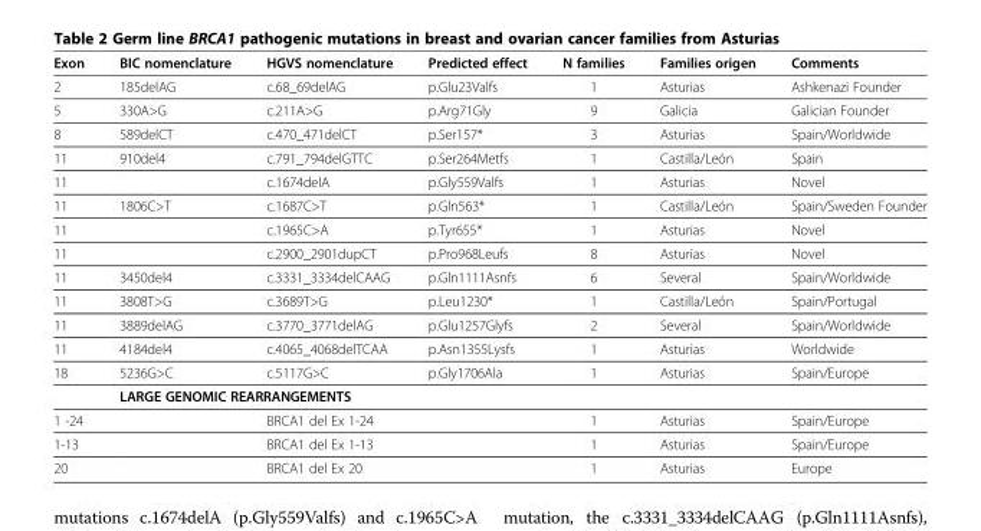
<table><thead><tr><td>Exon</td><td>BIC nomenclature</td><td>HGVS nomenclature</td><td>Predicted effect</td><td>N families</td><td>Families origen</td><td>Comments</td></tr></thead><tbody><tr><td>2</td><td>185delAG</td><td>c.68_69delAG</td><td>p.Glu23Valfs</td><td>1</td><td>Asturias</td><td>Ashkenazi Founder</td></tr><tr><td>5</td><td>330A&gt;G</td><td>c.211A&gt;G</td><td>p.Arg71Gly</td><td>9</td><td>Galicia</td><td>Galician Founder</td></tr><tr><td>8</td><td>589delCT</td><td>c.470_471delCT</td><td>p.Ser157*</td><td>3</td><td>Asturias</td><td>Spain/Worldwide</td></tr><tr><td>11</td><td>910del4</td><td>c.791_794delGTTC</td><td>p.Ser264Metfs</td><td>1</td><td>Castilla/León</td><td>Spain</td></tr><tr><td>11</td><td></td><td>c.1674delA</td><td>p.Gly559Valfs</td><td>1</td><td>Asturias</td><td>Novel</td></tr><tr><td>11</td><td>1806C&gt;T</td><td>c.1687C&gt;T</td><td>p.Gln563*</td><td>1</td><td>Castilla/León</td><td>Spain/Sweden Founder</td></tr><tr><td>11</td><td></td><td>c.1965C&gt;A</td><td>p.Tyr655*</td><td>1</td><td>Asturias</td><td>Novel</td></tr><tr><td>11</td><td></td><td>c.2900_2901dupCT</td><td>p.Pro968Leufs</td><td>8</td><td>Asturias</td><td>Novel</td></tr><tr><td>11</td><td>3450del4</td><td>c.3331_3334delCAAG</td><td>p.Gln1111Asnfs</td><td>6</td><td>Several</td><td>Spain/Worldwide</td></tr><tr><td>11</td><td>3808T&gt;G</td><td>c.3689T&gt;G</td><td>p.Leu1230*</td><td>1</td><td>Castilla/León</td><td>Spain/Portugal</td></tr><tr><td>11</td><td>3889delAG</td><td>c.3770_3771delAG</td><td>p.Glu1257Glyfs</td><td>2</td><td>Several</td><td>Spain/Worldwide</td></tr><tr><td>11</td><td>4184del4</td><td>c.4065_4068delTCAA</td><td>p.Asn1355Lysfs</td><td>1</td><td>Asturias</td><td>Worldwide</td></tr><tr><td rowspan="2">18</td><td>5236G&gt;C</td><td>c.5117G&gt;C</td><td>p.Gly1706Ala</td><td>1</td><td>Asturias</td><td>Spain/Europe</td></tr><tr><td colspan="3">LARGE GENOMIC REARRANGEMENTS</td><td></td><td></td><td></td></tr><tr><td>1 -24</td><td></td><td>BRCA1 del Ex 1-24</td><td></td><td>1</td><td>Asturias</td><td>Spain/Europe</td></tr><tr><td>1-13</td><td></td><td>BRCA1 del Ex 1-13</td><td></td><td>1</td><td>Asturias</td><td>Spain/Europe</td></tr><tr><td>20</td><td></td><td>BRCA1 del Ex 20</td><td></td><td>1</td><td>Asturias</td><td>Europe</td></tr></tbody></table>